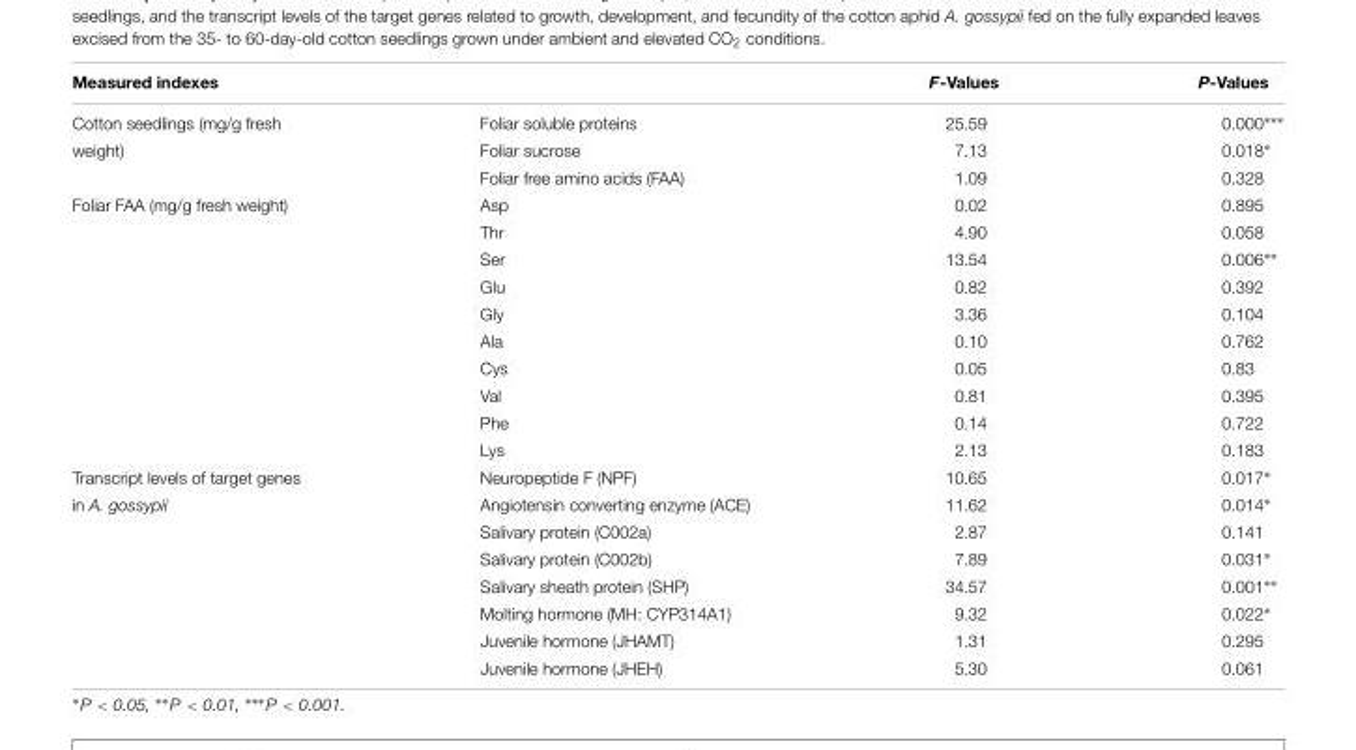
<table><thead><tr><td colspan="2">Measured indexes</td><td rowspan="2">F-Values 25.59</td><td rowspan="2">P-Values 0.000∗∗∗</td></tr><tr><td>Cotton seedlings (mg/g fresh</td><td>Foliar soluble proteins</td></tr></thead><tbody><tr><td rowspan="2">weight)</td><td>Foliar sucrose</td><td>7.13</td><td>0.018∗</td></tr><tr><td>Foliar free amino acids (FAA)</td><td>1.09</td><td>0.328</td></tr><tr><td rowspan="10">Foliar FAA (mg/g fresh weight)</td><td>Asp</td><td>0.02</td><td>0.895</td></tr><tr><td>Thr</td><td>4.90</td><td>0.058</td></tr><tr><td>Ser</td><td>13.54</td><td>0.006∗∗</td></tr><tr><td>Glu</td><td>0.82</td><td>0.392</td></tr><tr><td>Gly</td><td>3.36</td><td>0.104</td></tr><tr><td>Ala</td><td>0.10</td><td>0.762</td></tr><tr><td>Cys</td><td>0.05</td><td>0.83</td></tr><tr><td>Val</td><td>0.81</td><td>0.395</td></tr><tr><td>Phe</td><td>0.14</td><td>0.722</td></tr><tr><td>Lys</td><td>2.13</td><td>0.183</td></tr><tr><td>Transcript levels of target genes</td><td>Neuropeptide F (NPF)</td><td>10.65</td><td>0.017∗</td></tr><tr><td rowspan="7">in A. gossypii</td><td>Angiotensin converting enzyme (ACE)</td><td>11.62</td><td>0.014∗</td></tr><tr><td>Salivary protein (C002a)</td><td>2.87</td><td>0.141</td></tr><tr><td>Salivary protein (C002b)</td><td>7.89</td><td>0.031∗</td></tr><tr><td>Salivary sheath protein (SHP)</td><td>34.57</td><td>0.001∗∗</td></tr><tr><td>Molting hormone (MH: CYP314A1)</td><td>9.32</td><td>0.022∗</td></tr><tr><td>Juvenile hormone (JHAMT)</td><td>1.31</td><td>0.295</td></tr><tr><td>Juvenile hormone (JHEH)</td><td>5.30</td><td>0.061</td></tr></tbody></table>